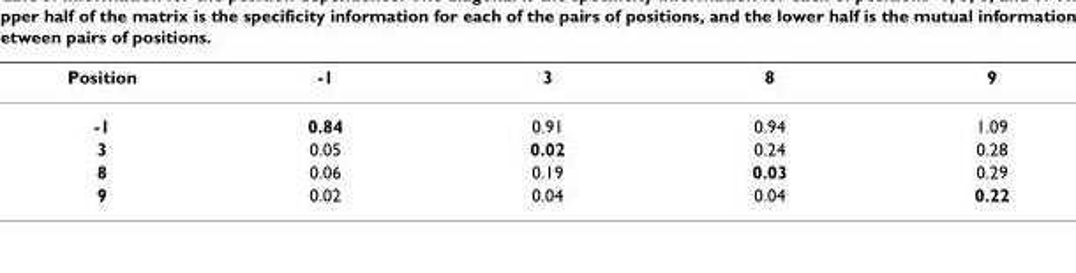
<table><thead><tr><td>Position</td><td>-1</td><td>3</td><td>8</td><td>9</td></tr></thead><tbody><tr><td>-1</td><td>0.84</td><td>0.91</td><td>0.94</td><td>1.09</td></tr><tr><td>3</td><td>0.05</td><td>0.02</td><td>0.24</td><td>0.28</td></tr><tr><td>8</td><td>0.06</td><td>0.19</td><td>0.03</td><td>0.29</td></tr><tr><td>9</td><td>0.02</td><td>0.04</td><td>0.04</td><td>0.22</td></tr></tbody></table>